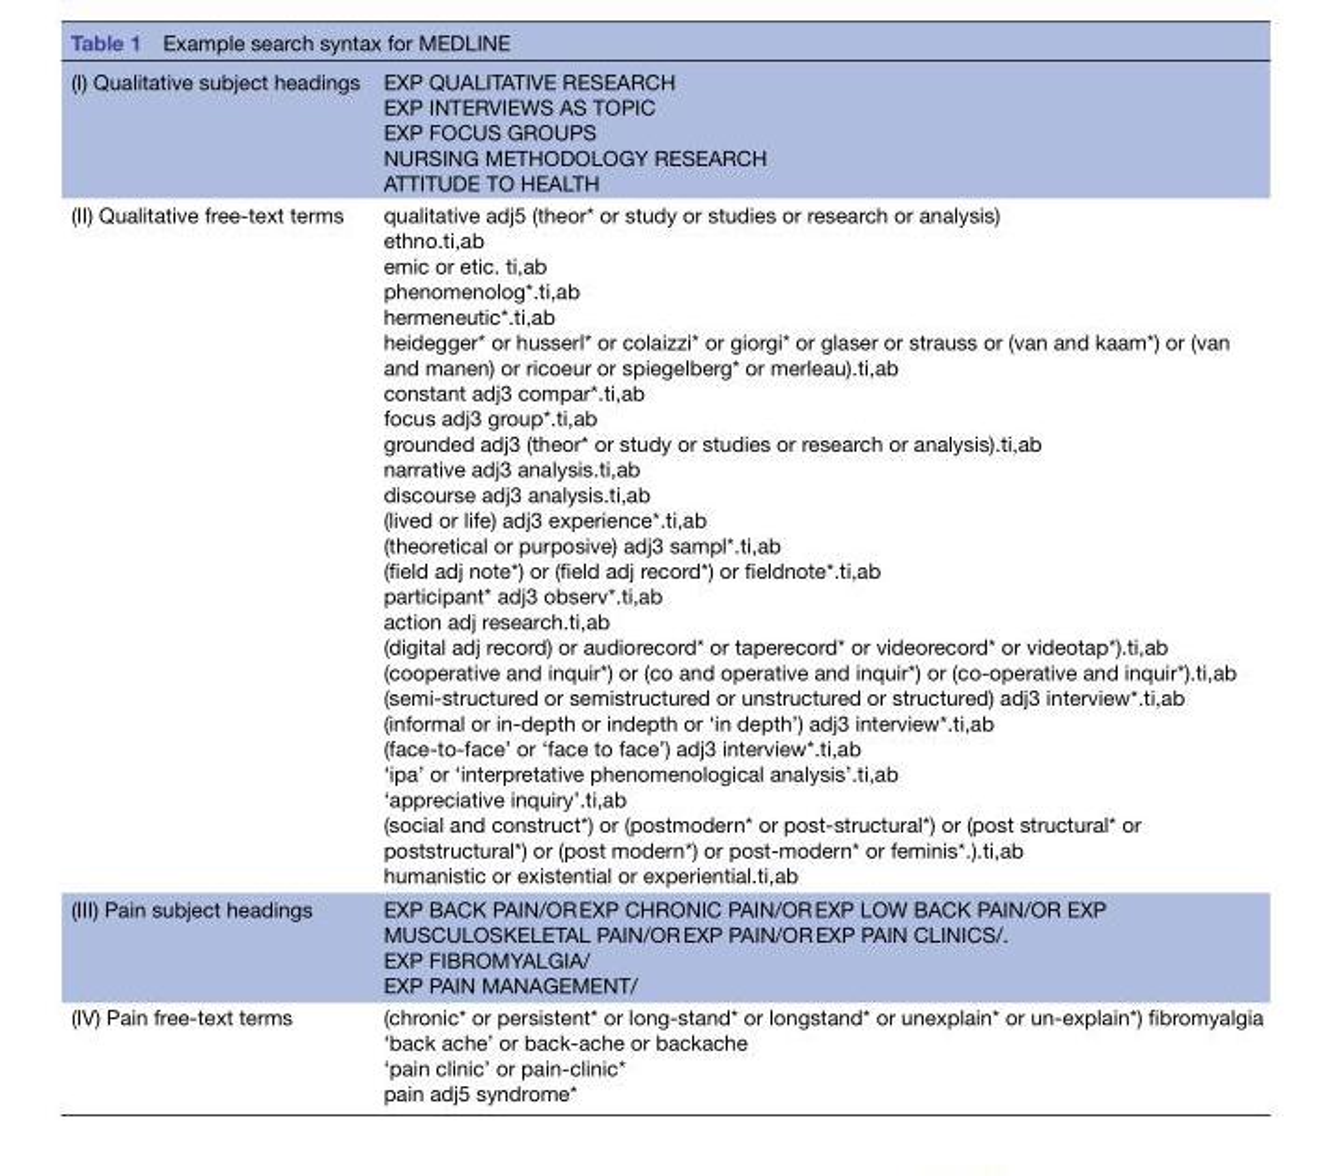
<table><tbody><tr><td>(I) Qualitative subject headings</td><td>EXP QUALITATIVE RESEARCH EXP INTERVIEWS AS TOPIC EXP FOCUS GROUPS NURSING METHODOLOGY RESEARCH ATTITUDE TO HEALTH</td></tr><tr><td>(II) Qualitative free-text terms</td><td>qualitative adj5 (theor* or study or studies or research or analysis) ethno.ti,ab emic or etic. ti,ab phenomenolog*.ti,ab hermeneutic*.ti,ab heidegger* or husserl* or colaizzi* or giorgi* or glaser or strauss or (van and kaam*) or (van and manen) or ricoeur or spiegelberg* or merleau).ti,ab constant adj3 compar*.ti,ab focus adj3 group*.ti,ab grounded adj3 (theor* or study or studies or research or analysis).ti,ab narrative adj3 analysis.ti,ab discourse adj3 analysis.ti,ab (lived or life) adj3 experience*.ti,ab (theoretical or purposive) adj3 sampl*.ti,ab (field adj note*) or (field adj record*) or fieldnote*.ti,ab participant* adj3 observ*.ti,ab action adj research.ti,ab (digital adj record) or audiorecord* or taperecord* or videorecord* or videotap*).ti,ab (cooperative and inquir*) or (co and operative and inquir*) or (co-operative and inquir*).ti,ab (semi-structured or semistructured or unstructured or structured) adj3 interview*.ti,ab (informal or in-depth or indepth or ‘in depth’) adj3 interview*.ti,ab (face-to-face’ or ‘face to face’) adj3 interview*.ti,ab ‘ipa’ or ‘interpretative phenomenological analysis’.ti,ab ‘appreciative inquiry’.ti,ab (social and construct*) or (postmodern* or post-structural*) or (post structural* or poststructural*) or (post modern*) or post-modern* or feminis*.).ti,ab humanistic or existential or experiential.ti,ab</td></tr><tr><td>(III) Pain subject headings</td><td>EXP BACK PAIN/OR EXP CHRONIC PAIN/OR EXP LOW BACK PAIN/OR EXP MUSCULOSKELETAL PAIN/OR EXP PAIN/OR EXP PAIN CLINICS/. EXP FIBROMYALGIA/ EXP PAIN MANAGEMENT/</td></tr><tr><td>(IV) Pain free-text terms</td><td>(chronic* or persistent* or long-stand* or longstand* or unexplain* or un-explain*) fibromyalgia ‘back ache’ or back-ache or backache ‘pain clinic’ or pain-clinic* pain adj5 syndrome*</td></tr></tbody></table>